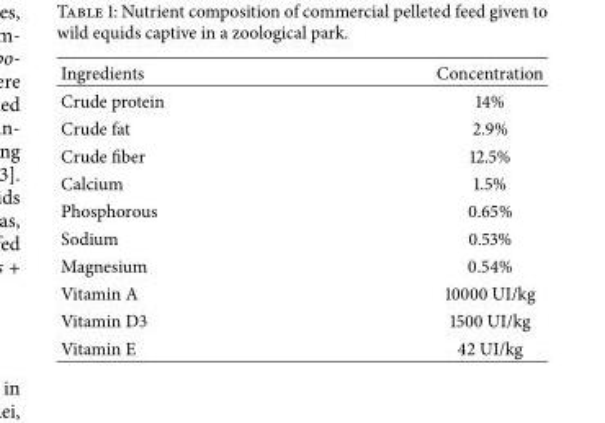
<table><thead><tr><td>Ingredients</td><td>Concentration</td></tr></thead><tbody><tr><td>Crude protein</td><td>14%</td></tr><tr><td>Crude fat</td><td>2.9%</td></tr><tr><td>Crude fiber</td><td>12.5%</td></tr><tr><td>Calcium</td><td>1.5%</td></tr><tr><td>Phosphorous</td><td>0.65%</td></tr><tr><td>Sodium</td><td>0.53%</td></tr><tr><td>Magnesium</td><td>0.54%</td></tr><tr><td>Vitamin A</td><td>10000 UI/kg</td></tr><tr><td>Vitamin D3</td><td>1500 UI/kg</td></tr><tr><td>Vitamin E</td><td>42 UI/kg</td></tr></tbody></table>